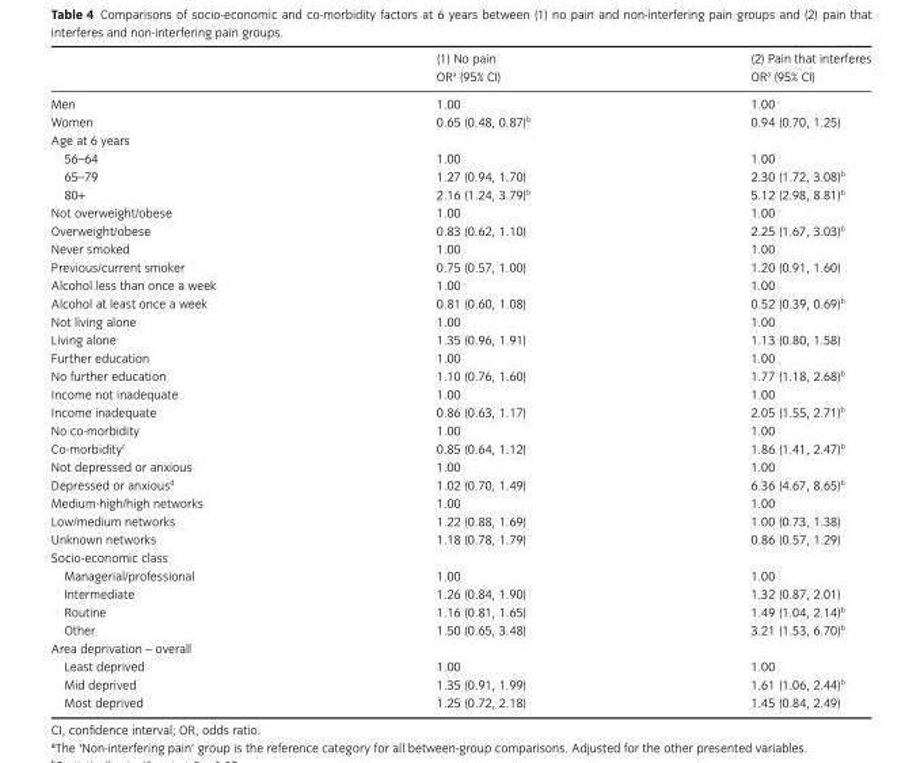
<table><thead><tr><td rowspan="2"></td><td rowspan="2">(1) No pain OR<sup>a</sup> (95% CI)</td><td rowspan="2">(2) Pain that interferes OR<sup>a</sup> (95% CI)</td></tr><tr></tr></thead><tbody><tr><td>Men</td><td>1.00</td><td>1.00</td></tr><tr><td>Women</td><td>0.65 (0.48, 0.87)<sup>b</sup></td><td>0.94 (0.70, 1.25)</td></tr><tr><td colspan="3">Age at 6 years</td></tr><tr><td>56–64</td><td>1.00</td><td>1.00</td></tr><tr><td>65–79</td><td>1.27 (0.94, 1.70)</td><td>2.30 (1.72, 3.08)<sup>b</sup></td></tr><tr><td>80+</td><td>2.16 (1.24, 3.79)<sup>b</sup></td><td>5.12 (2.98, 8.81)<sup>b</sup></td></tr><tr><td>Not overweight/obese</td><td>1.00</td><td>1.00</td></tr><tr><td>Overweight/obese</td><td>0.83 (0.62, 1.10)</td><td>2.25 (1.67, 3.03)<sup>b</sup></td></tr><tr><td>Never smoked</td><td>1.00</td><td>1.00</td></tr><tr><td>Previous/current smoker</td><td>0.75 (0.57, 1.00)</td><td>1.20 (0.91, 1.60)</td></tr><tr><td>Alcohol less than once a week</td><td>1.00</td><td>1.00</td></tr><tr><td>Alcohol at least once a week</td><td>0.81 (0.60, 1.08)</td><td>0.52 (0.39, 0.69)<sup>b</sup></td></tr><tr><td>Not living alone</td><td>1.00</td><td>1.00</td></tr><tr><td>Living alone</td><td>1.35 (0.96, 1.91)</td><td>1.13 (0.80, 1.58)</td></tr><tr><td>Further education</td><td>1.00</td><td>1.00</td></tr><tr><td>No further education</td><td>1.10 (0.76, 1.60)</td><td>1.77 (1.18, 2.68)<sup>b</sup></td></tr><tr><td>Income not inadequate</td><td>1.00</td><td>1.00</td></tr><tr><td>Income inadequate</td><td>0.86 (0.63, 1.17)</td><td>2.05 (1.55, 2.71)<sup>b</sup></td></tr><tr><td>No co-morbidity</td><td>1.00</td><td>1.00</td></tr><tr><td>Co-morbidity<sup>c</sup></td><td>0.85 (0.64, 1.12)</td><td>1.86 (1.41, 2.47)<sup>b</sup></td></tr><tr><td>Not depressed or anxious</td><td>1.00</td><td>1.00</td></tr><tr><td>Depressed or anxious<sup>d</sup></td><td>1.02 (0.70, 1.49)</td><td>6.36 (4.67, 8.65)<sup>b</sup></td></tr><tr><td>Medium-high/high networks</td><td>1.00</td><td>1.00</td></tr><tr><td>Low/medium networks</td><td>1.22 (0.88, 1.69)</td><td>1.00 (0.73, 1.38)</td></tr><tr><td>Unknown networks</td><td>1.18 (0.78, 1.79)</td><td>0.86 (0.57, 1.29)</td></tr><tr><td colspan="3">Socio-economic class</td></tr><tr><td>Managerial/professional</td><td>1.00</td><td>1.00</td></tr><tr><td>Intermediate</td><td>1.26 (0.84, 1.90)</td><td>1.32 (0.87, 2.01)</td></tr><tr><td>Routine</td><td>1.16 (0.81, 1.65)</td><td>1.49 (1.04, 2.14)<sup>b</sup></td></tr><tr><td>Other</td><td>1.50 (0.65, 3.48)</td><td>3.21 (1.53, 6.70)<sup>b</sup></td></tr><tr><td colspan="3">Area deprivation – overall</td></tr><tr><td>Least deprived</td><td>1.00</td><td>1.00</td></tr><tr><td>Mid deprived</td><td>1.35 (0.91, 1.99)</td><td>1.61 (1.06, 2.44)<sup>b</sup></td></tr><tr><td>Most deprived</td><td>1.25 (0.72, 2.18)</td><td>1.45 (0.84, 2.49)</td></tr></tbody></table>